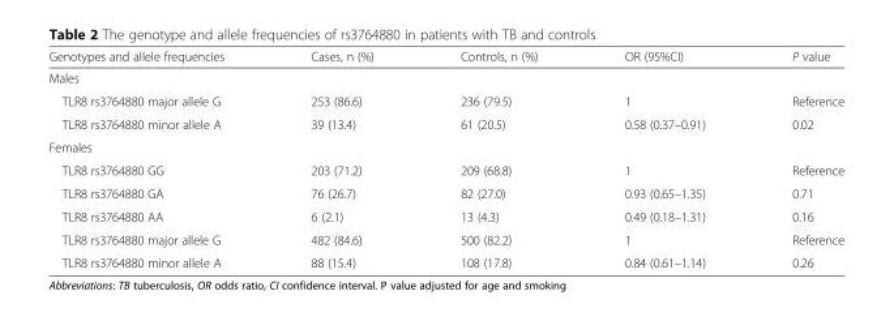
<table><thead><tr><td>Genotypes and allele frequencies</td><td>Cases, n (%)</td><td>Controls, n (%)</td><td>OR (95%CI)</td><td>P value</td></tr></thead><tbody><tr><td colspan="5">Males</td></tr><tr><td>TLR8 rs3764880 major allele G</td><td>253 (86.6)</td><td>236 (79.5)</td><td>1</td><td>Reference</td></tr><tr><td>TLR8 rs3764880 minor allele A</td><td>39 (13.4)</td><td>61 (20.5)</td><td>0.58 (0.37–0.91)</td><td>0.02</td></tr><tr><td colspan="5">Females</td></tr><tr><td>TLR8 rs3764880 GG</td><td>203 (71.2)</td><td>209 (68.8)</td><td>1</td><td>Reference</td></tr><tr><td>TLR8 rs3764880 GA</td><td>76 (26.7)</td><td>82 (27.0)</td><td>0.93 (0.65–1.35)</td><td>0.71</td></tr><tr><td>TLR8 rs3764880 AA</td><td>6 (2.1)</td><td>13 (4.3)</td><td>0.49 (0.18–1.31)</td><td>0.16</td></tr><tr><td>TLR8 rs3764880 major allele G</td><td>482 (84.6)</td><td>500 (82.2)</td><td>1</td><td>Reference</td></tr><tr><td>TLR8 rs3764880 minor allele A</td><td>88 (15.4)</td><td>108 (17.8)</td><td>0.84 (0.61–1.14)</td><td>0.26</td></tr></tbody></table>